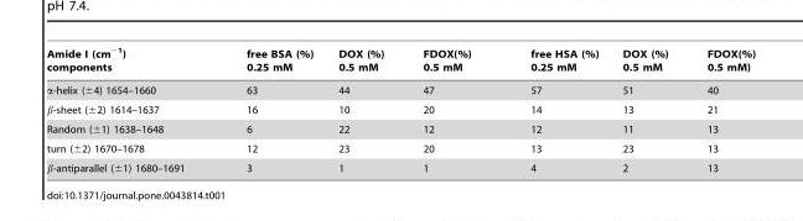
<table><thead><tr><td>Amide I (cm<sup>−1</sup>) components</td><td>free BSA (%) 0.25 mM</td><td>DOX (%) 0.5 mM</td><td>FDOX(%) 0.5 mM</td><td>free HSA (%) 0.25 mM</td><td>DOX (%) 0.5 mM</td><td>FDOX(%) 0.5 mM)</td></tr></thead><tbody><tr><td>α-helix (±4) 1654–1660</td><td>63</td><td>44</td><td>47</td><td>57</td><td>51</td><td>40</td></tr><tr><td>β-sheet (±2) 1614–1637</td><td>16</td><td>10</td><td>20</td><td>14</td><td>13</td><td>21</td></tr><tr><td>Random (±1) 1638–1648</td><td>6</td><td>22</td><td>12</td><td>12</td><td>11</td><td>13</td></tr><tr><td>turn (±2) 1670–1678</td><td>12</td><td>23</td><td>20</td><td>13</td><td>23</td><td>13</td></tr><tr><td>β-antiparallel (±1) 1680–1691</td><td>3</td><td>1</td><td>1</td><td>4</td><td>2</td><td>13</td></tr></tbody></table>